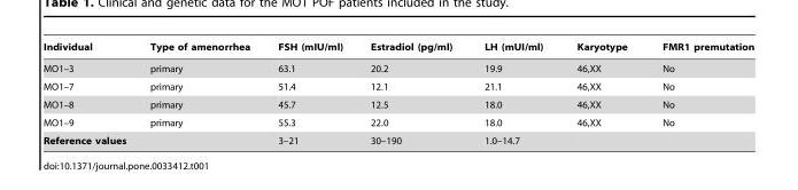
<table><thead><tr><td>Individual</td><td>Type of amenorrhea</td><td>FSH (mIU/ml)</td><td>Estradiol (pg/ml)</td><td>LH (mUI/ml)</td><td>Karyotype</td><td>FMR1 premutation</td></tr></thead><tbody><tr><td>MO1–3</td><td>primary</td><td>63.1</td><td>20.2</td><td>19.9</td><td>46,XX</td><td>No</td></tr><tr><td>MO1–7</td><td>primary</td><td>51.4</td><td>12.1</td><td>21.1</td><td>46,XX</td><td>No</td></tr><tr><td>MO1–8</td><td>primary</td><td>45.7</td><td>12.5</td><td>18.0</td><td>46,XX</td><td>No</td></tr><tr><td>MO1–9</td><td>primary</td><td>55.3</td><td>22.0</td><td>18.0</td><td>46,XX</td><td>No</td></tr><tr><td colspan="2">Reference values</td><td>3–21</td><td>30–190</td><td>1.0–14.7</td><td></td><td></td></tr></tbody></table>